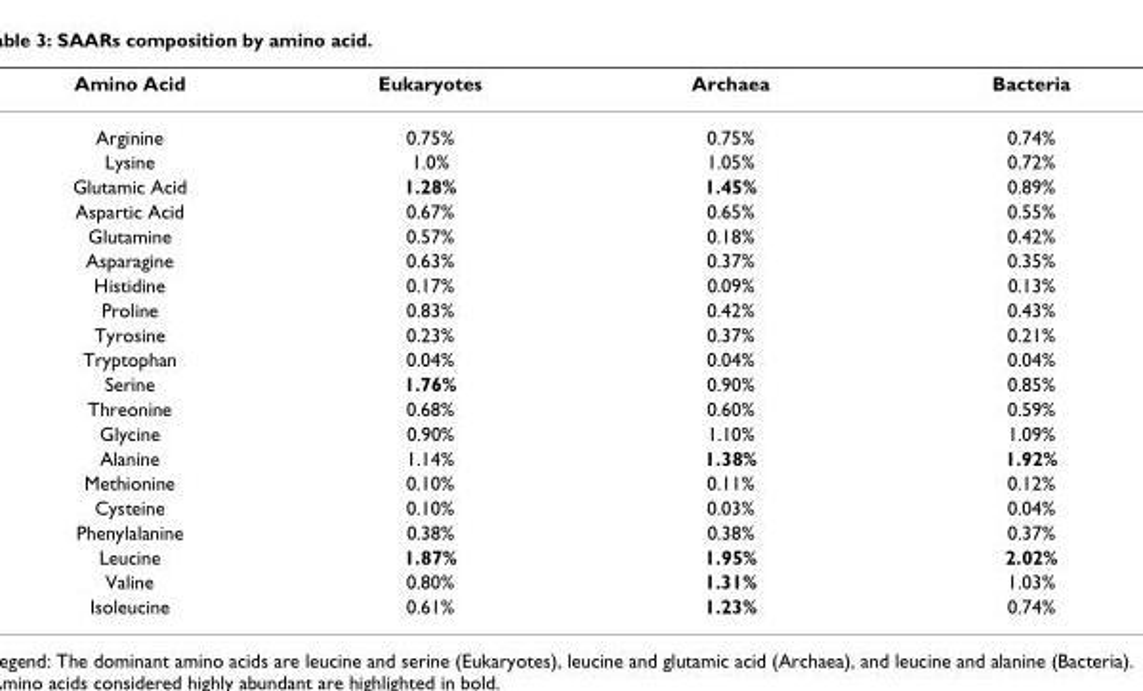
<table><thead><tr><td>Amino Acid</td><td>Eukaryotes</td><td>Archaea</td><td>Bacteria</td></tr></thead><tbody><tr><td>Arginine</td><td>0.75%</td><td>0.75%</td><td>0.74%</td></tr><tr><td>Lysine</td><td>1.0%</td><td>1.05%</td><td>0.72%</td></tr><tr><td>Glutamic Acid</td><td>1.28%</td><td>1.45%</td><td>0.89%</td></tr><tr><td>Aspartic Acid</td><td>0.67%</td><td>0.65%</td><td>0.55%</td></tr><tr><td>Glutamine</td><td>0.57%</td><td>0.18%</td><td>0.42%</td></tr><tr><td>Asparagine</td><td>0.63%</td><td>0.37%</td><td>0.35%</td></tr><tr><td>Histidine</td><td>0.17%</td><td>0.09%</td><td>0.13%</td></tr><tr><td>Proline</td><td>0.83%</td><td>0.42%</td><td>0.43%</td></tr><tr><td>Tyrosine</td><td>0.23%</td><td>0.37%</td><td>0.21%</td></tr><tr><td>Tryptophan</td><td>0.04%</td><td>0.04%</td><td>0.04%</td></tr><tr><td>Serine</td><td>1.76%</td><td>0.90%</td><td>0.85%</td></tr><tr><td>Threonine</td><td>0.68%</td><td>0.60%</td><td>0.59%</td></tr><tr><td>Glycine</td><td>0.90%</td><td>1.10%</td><td>1.09%</td></tr><tr><td>Alanine</td><td>1.14%</td><td>1.38%</td><td>1.92%</td></tr><tr><td>Methionine</td><td>0.10%</td><td>0.11%</td><td>0.12%</td></tr><tr><td>Cysteine</td><td>0.10%</td><td>0.03%</td><td>0.04%</td></tr><tr><td>Phenylalanine</td><td>0.38%</td><td>0.38%</td><td>0.37%</td></tr><tr><td>Leucine</td><td>1.87%</td><td>1.95%</td><td>2.02%</td></tr><tr><td>Valine</td><td>0.80%</td><td>1.31%</td><td>1.03%</td></tr><tr><td>Isoleucine</td><td>0.61%</td><td>1.23%</td><td>0.74%</td></tr></tbody></table>